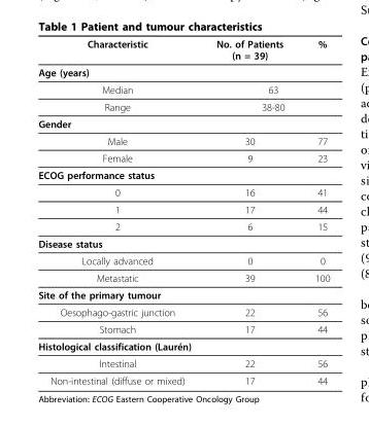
<table><thead><tr><td>Characteristic</td><td>No. of Patients (n = 39)</td><td>%</td></tr></thead><tbody><tr><td colspan="3">Age (years)</td></tr><tr><td>Median</td><td colspan="2">63</td></tr><tr><td>Range</td><td colspan="2">38-80</td></tr><tr><td colspan="3">Gender</td></tr><tr><td>Male</td><td>30</td><td>77</td></tr><tr><td>Female</td><td>9</td><td>23</td></tr><tr><td colspan="3">ECOG performance status</td></tr><tr><td>0</td><td>16</td><td>41</td></tr><tr><td>1</td><td>17</td><td>44</td></tr><tr><td>2</td><td>6</td><td>15</td></tr><tr><td colspan="3">Disease status</td></tr><tr><td>Locally advanced</td><td>0</td><td>0</td></tr><tr><td>Metastatic</td><td>39</td><td>100</td></tr><tr><td colspan="3">Site of the primary tumour</td></tr><tr><td>Oesophago-gastric junction</td><td>22</td><td>56</td></tr><tr><td>Stomach</td><td>17</td><td>44</td></tr><tr><td colspan="3">Histological classification (Laurén)</td></tr><tr><td>Intestinal</td><td>22</td><td>56</td></tr><tr><td>Non-intestinal (diffuse or mixed)</td><td>17</td><td>44</td></tr></tbody></table>